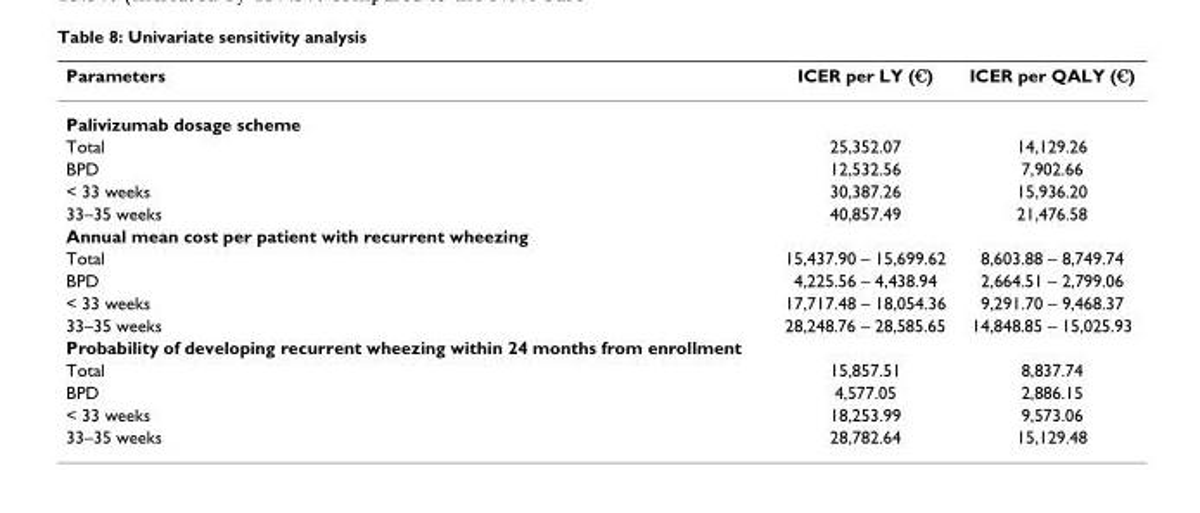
<table><thead><tr><td>Parameters</td><td>ICER per LY (€)</td><td>ICER per QALY (€)</td></tr></thead><tbody><tr><td colspan="3">Palivizumab dosage scheme</td></tr><tr><td>Total</td><td>25,352.07</td><td>14,129.26</td></tr><tr><td>BPD</td><td>12,532.56</td><td>7,902.66</td></tr><tr><td>&lt; 33 weeks</td><td>30,387.26</td><td>15,936.20</td></tr><tr><td>33–35 weeks</td><td>40,857.49</td><td>21,476.58</td></tr><tr><td colspan="3">Annual mean cost per patient with recurrent wheezing</td></tr><tr><td>Total</td><td>15,437.90 – 15,699.62</td><td>8,603.88 – 8,749.74</td></tr><tr><td>BPD</td><td>4,225.56 – 4,438.94</td><td>2,664.51 – 2,799.06</td></tr><tr><td>&lt; 33 weeks</td><td>17,717.48 – 18,054.36</td><td>9,291.70 – 9,468.37</td></tr><tr><td>33–35 weeks</td><td>28,248.76 – 28,585.65</td><td>14,848.85 – 15,025.93</td></tr><tr><td colspan="3">Probability of developing recurrent wheezing within 24 months from enrollment</td></tr><tr><td>Total</td><td>15,857.51</td><td>8,837.74</td></tr><tr><td>BPD</td><td>4,577.05</td><td>2,886.15</td></tr><tr><td>&lt; 33 weeks</td><td>18,253.99</td><td>9,573.06</td></tr><tr><td>33–35 weeks</td><td>28,782.64</td><td>15,129.48</td></tr></tbody></table>